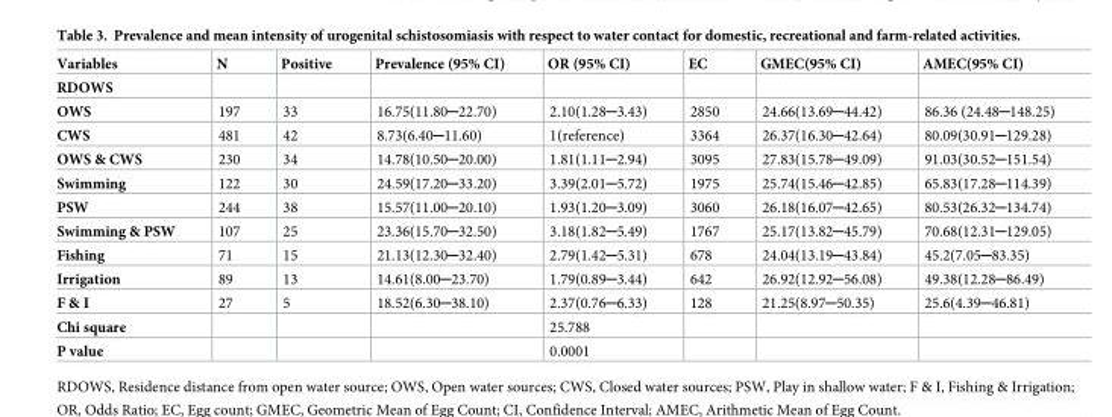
<table><thead><tr><td>Variables</td><td>N</td><td>Positive</td><td>Prevalence (95% CI)</td><td>OR (95% CI)</td><td>EC</td><td>GMEC(95% CI)</td><td>AMEC(95% CI)</td></tr></thead><tbody><tr><td colspan="8">RDOWS</td></tr><tr><td>OWS</td><td>197</td><td>33</td><td>16.75(11.80─22.70)</td><td>2.10(1.28─3.43)</td><td>2850</td><td>24.66(13.69─44.42)</td><td>86.36 (24.48─148.25)</td></tr><tr><td>CWS</td><td>481</td><td>42</td><td>8.73(6.40─11.60)</td><td>1(reference)</td><td>3364</td><td>26.37(16.30─42.64)</td><td>80.09(30.91─129.28)</td></tr><tr><td>OWS &amp; CWS</td><td>230</td><td>34</td><td>14.78(10.50─20.00)</td><td>1.81(1.11─2.94)</td><td>3095</td><td>27.83(15.78─49.09)</td><td>91.03(30.52─151.54)</td></tr><tr><td>Swimming</td><td>122</td><td>30</td><td>24.59(17.20─33.20)</td><td>3.39(2.01─5.72)</td><td>1975</td><td>25.74(15.46─42.85)</td><td>65.83(17.28─114.39)</td></tr><tr><td>PSW</td><td>244</td><td>38</td><td>15.57(11.00─20.10)</td><td>1.93(1.20─3.09)</td><td>3060</td><td>26.18(16.07─42.65)</td><td>80.53(26.32─134.74)</td></tr><tr><td>Swimming &amp; PSW</td><td>107</td><td>25</td><td>23.36(15.70─32.50)</td><td>3.18(1.82─5.49)</td><td>1767</td><td>25.17(13.82─45.79)</td><td>70.68(12.31─129.05)</td></tr><tr><td>Fishing</td><td>71</td><td>15</td><td>21.13(12.30─32.40)</td><td>2.79(1.42─5.31)</td><td>678</td><td>24.04(13.19─43.84)</td><td>45.2(7.05─83.35)</td></tr><tr><td>Irrigation</td><td>89</td><td>13</td><td>14.61(8.00─23.70)</td><td>1.79(0.89─3.44)</td><td>642</td><td>26.92(12.92─56.08)</td><td>49.38(12.28─86.49)</td></tr><tr><td>F &amp; I</td><td>27</td><td>5</td><td>18.52(6.30─38.10)</td><td>2.37(0.76─6.33)</td><td>128</td><td>21.25(8.97─50.35)</td><td>25.6(4.39─46.81)</td></tr><tr><td>Chi square</td><td></td><td></td><td></td><td>25.788</td><td></td><td></td><td></td></tr><tr><td>P value</td><td></td><td></td><td></td><td>0.0001</td><td></td><td></td><td></td></tr></tbody></table>